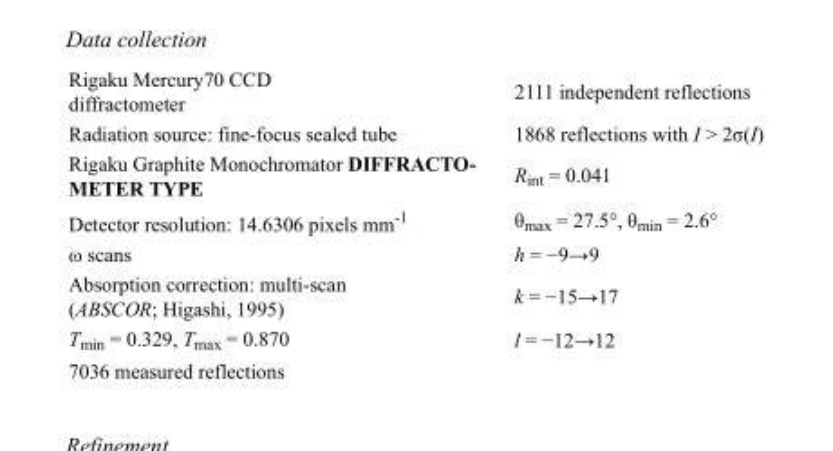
<table><tbody><tr><td>Rigaku Mercury70 CCD diffractometer</td><td>2111 independent reflections</td></tr><tr><td>Radiation source: fine-focus sealed tube</td><td>1868 reflections with I &gt; 2σ(I)</td></tr><tr><td>Rigaku Graphite Monochromator DIFFRACTO- METER TYPE</td><td>R<sub>int</sub> = 0.041</td></tr><tr><td>Detector resolution: 14.6306 pixels mm<sup>-1</sup></td><td>θ<sub>max</sub> = 27.5°, θ<sub>min</sub> = 2.6°</td></tr><tr><td>ω scans</td><td>h = −9→9</td></tr><tr><td>Absorption correction: multi-scan (ABSCOR; Higashi, 1995)</td><td>k = −15→17</td></tr><tr><td>T<sub>min</sub> = 0.329, T<sub>max</sub> = 0.870</td><td>l = −12→12</td></tr><tr><td>7036 measured reflections</td><td></td></tr></tbody></table>